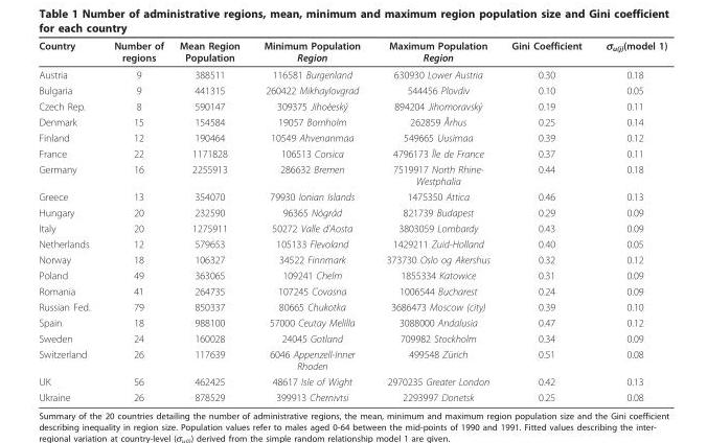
<table><thead><tr><td>Country</td><td>Number of regions</td><td>Mean Region Population</td><td>Minimum Population Region</td><td>Maximum Population Region</td><td>Gini Coefficient</td><td>σ<sub>u(j)</sub>(model 1)</td></tr></thead><tbody><tr><td>Austria</td><td>9</td><td>388511</td><td>116581 Burgenland</td><td>630930 Lower Austria</td><td>0.30</td><td>0.18</td></tr><tr><td>Bulgaria</td><td>9</td><td>441315</td><td>260422 Mikhaylovgrad</td><td>544456 Plovdiv</td><td>0.10</td><td>0.05</td></tr><tr><td>Czech Rep.</td><td>8</td><td>590147</td><td>309375 Jihoèeský</td><td>894204 Jihomoravský</td><td>0.19</td><td>0.11</td></tr><tr><td>Denmark</td><td>15</td><td>154584</td><td>19057 Bornholm</td><td>262859 Århus</td><td>0.25</td><td>0.14</td></tr><tr><td>Finland</td><td>12</td><td>190464</td><td>10549 Ahvenanmaa</td><td>549665 Uusimaa</td><td>0.39</td><td>0.12</td></tr><tr><td>France</td><td>22</td><td>1171828</td><td>106513 Corsica</td><td>4796173 Île de France</td><td>0.37</td><td>0.11</td></tr><tr><td>Germany</td><td>16</td><td>2255913</td><td>286632 Bremen</td><td>7519917 North Rhine- Westphalia</td><td>0.44</td><td>0.18</td></tr><tr><td>Greece</td><td>13</td><td>354070</td><td>79930 Ionian Islands</td><td>1475350 Attica</td><td>0.46</td><td>0.13</td></tr><tr><td>Hungary</td><td>20</td><td>232590</td><td>96365 Nόgrád</td><td>821739 Budapest</td><td>0.29</td><td>0.09</td></tr><tr><td>Italy</td><td>20</td><td>1275911</td><td>50272 Valle d’Aosta</td><td>3803059 Lombardy</td><td>0.43</td><td>0.09</td></tr><tr><td>Netherlands</td><td>12</td><td>579653</td><td>105133 Flevoland</td><td>1429211 Zuid-Holland</td><td>0.40</td><td>0.05</td></tr><tr><td>Norway</td><td>18</td><td>106327</td><td>34522 Finnmark</td><td>373730 Oslo og Akershus</td><td>0.32</td><td>0.12</td></tr><tr><td>Poland</td><td>49</td><td>363065</td><td>109241 Chelm</td><td>1855334 Katowice</td><td>0.31</td><td>0.09</td></tr><tr><td>Romania</td><td>41</td><td>264735</td><td>107245 Covasna</td><td>1006544 Bucharest</td><td>0.24</td><td>0.09</td></tr><tr><td>Russian Fed.</td><td>79</td><td>850337</td><td>80665 Chukotka</td><td>3686473 Moscow (city)</td><td>0.39</td><td>0.10</td></tr><tr><td>Spain</td><td>18</td><td>988100</td><td>57000 Ceutay Melilla</td><td>3088000 Andalusia</td><td>0.47</td><td>0.12</td></tr><tr><td>Sweden</td><td>24</td><td>160028</td><td>24045 Gotland</td><td>709982 Stockholm</td><td>0.34</td><td>0.09</td></tr><tr><td>Switzerland</td><td>26</td><td>117639</td><td>6046 Appenzell-Inner Rhoden</td><td>499548 Zürich</td><td>0.51</td><td>0.08</td></tr><tr><td>UK</td><td>56</td><td>462425</td><td>48617 Isle of Wight</td><td>2970235 Greater London</td><td>0.42</td><td>0.13</td></tr><tr><td>Ukraine</td><td>26</td><td>878529</td><td>399913 Chernivtsi</td><td>2293997 Donetsk</td><td>0.25</td><td>0.08</td></tr></tbody></table>